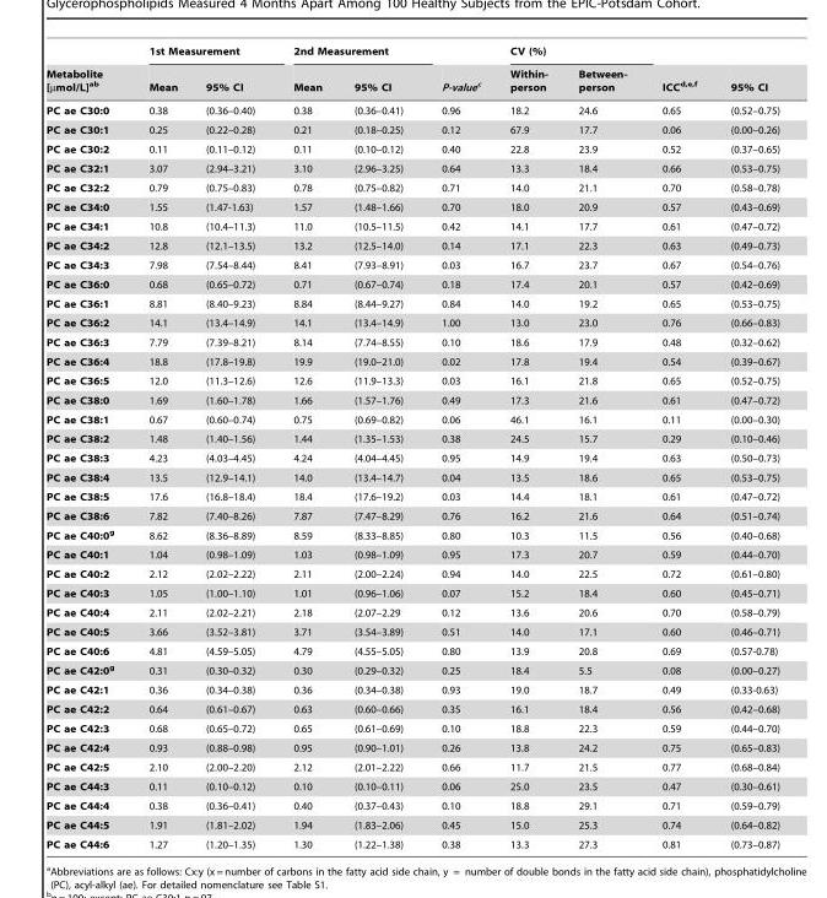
<table><thead><tr><td rowspan="2">Metabolite [µmol/L]<sup>ab</sup></td><td colspan="2">1st Measurement</td><td colspan="2">2nd Measurement</td><td rowspan="2">P-valuec</td><td colspan="2">CV (%)</td><td rowspan="2">ICC<sup>d,</sup>e<sup>,</sup>f</td><td rowspan="2">95% CI</td></tr><tr><td>Mean</td><td>95% CI</td><td>Mean</td><td>95% CI</td><td>Within- person</td><td>Between- person</td></tr></thead><tbody><tr><td>PC ae C30:0</td><td>0.38</td><td>(0.36–0.40)</td><td>0.38</td><td>(0.36–0.41)</td><td>0.96</td><td>18.2</td><td>24.6</td><td>0.65</td><td>(0.52–0.75)</td></tr><tr><td>PC ae C30:1</td><td>0.25</td><td>(0.22–0.28)</td><td>0.21</td><td>(0.18–0.25)</td><td>0.12</td><td>67.9</td><td>17.7</td><td>0.06</td><td>(0.00–0.26)</td></tr><tr><td>PC ae C30:2</td><td>0.11</td><td>(0.11–0.12)</td><td>0.11</td><td>(0.10–0.12)</td><td>0.40</td><td>22.8</td><td>23.9</td><td>0.52</td><td>(0.37–0.65)</td></tr><tr><td>PC ae C32:1</td><td>3.07</td><td>(2.94–3.21)</td><td>3.10</td><td>(2.96–3.25)</td><td>0.64</td><td>13.3</td><td>18.4</td><td>0.66</td><td>(0.53–0.75)</td></tr><tr><td>PC ae C32:2</td><td>0.79</td><td>(0.75–0.83)</td><td>0.78</td><td>(0.75–0.82)</td><td>0.71</td><td>14.0</td><td>21.1</td><td>0.70</td><td>(0.58–0.78)</td></tr><tr><td>PC ae C34:0</td><td>1.55</td><td>(1.47-1.63)</td><td>1.57</td><td>(1.48–1.66)</td><td>0.70</td><td>18.0</td><td>20.9</td><td>0.57</td><td>(0.43–0.69)</td></tr><tr><td>PC ae C34:1</td><td>10.8</td><td>(10.4–11.3)</td><td>11.0</td><td>(10.5–11.5)</td><td>0.42</td><td>14.1</td><td>17.7</td><td>0.61</td><td>(0.47–0.72)</td></tr><tr><td>PC ae C34:2</td><td>12.8</td><td>(12.1–13.5)</td><td>13.2</td><td>(12.5–14.0)</td><td>0.14</td><td>17.1</td><td>22.3</td><td>0.63</td><td>(0.49–0.73)</td></tr><tr><td>PC ae C34:3</td><td>7.98</td><td>(7.54–8.44)</td><td>8.41</td><td>(7.93–8.91)</td><td>0.03</td><td>16.7</td><td>23.7</td><td>0.67</td><td>(0.54–0.76)</td></tr><tr><td>PC ae C36:0</td><td>0.68</td><td>(0.65–0.72)</td><td>0.71</td><td>(0.67–0.74)</td><td>0.18</td><td>17.4</td><td>20.1</td><td>0.57</td><td>(0.42–0.69)</td></tr><tr><td>PC ae C36:1</td><td>8.81</td><td>(8.40–9.23)</td><td>8.84</td><td>(8.44–9.27)</td><td>0.84</td><td>14.0</td><td>19.2</td><td>0.65</td><td>(0.53–0.75)</td></tr><tr><td>PC ae C36:2</td><td>14.1</td><td>(13.4–14.9)</td><td>14.1</td><td>(13.4–14.9)</td><td>1.00</td><td>13.0</td><td>23.0</td><td>0.76</td><td>(0.66–0.83)</td></tr><tr><td>PC ae C36:3</td><td>7.79</td><td>(7.39–8.21)</td><td>8.14</td><td>(7.74–8.55)</td><td>0.10</td><td>18.6</td><td>17.9</td><td>0.48</td><td>(0.32–0.62)</td></tr><tr><td>PC ae C36:4</td><td>18.8</td><td>(17.8–19.8)</td><td>19.9</td><td>(19.0–21.0)</td><td>0.02</td><td>17.8</td><td>19.4</td><td>0.54</td><td>(0.39–0.67)</td></tr><tr><td>PC ae C36:5</td><td>12.0</td><td>(11.3–12.6)</td><td>12.6</td><td>(11.9–13.3)</td><td>0.03</td><td>16.1</td><td>21.8</td><td>0.65</td><td>(0.52–0.75)</td></tr><tr><td>PC ae C38:0</td><td>1.69</td><td>(1.60–1.78)</td><td>1.66</td><td>(1.57–1.76)</td><td>0.49</td><td>17.3</td><td>21.6</td><td>0.61</td><td>(0.47–0.72)</td></tr><tr><td>PC ae C38:1</td><td>0.67</td><td>(0.60–0.74)</td><td>0.75</td><td>(0.69–0.82)</td><td>0.06</td><td>46.1</td><td>16.1</td><td>0.11</td><td>(0.00–0.30)</td></tr><tr><td>PC ae C38:2</td><td>1.48</td><td>(1.40–1.56)</td><td>1.44</td><td>(1.35–1.53)</td><td>0.38</td><td>24.5</td><td>15.7</td><td>0.29</td><td>(0.10–0.46)</td></tr><tr><td>PC ae C38:3</td><td>4.23</td><td>(4.03–4.45)</td><td>4.24</td><td>(4.04–4.45)</td><td>0.95</td><td>14.9</td><td>19.4</td><td>0.63</td><td>(0.50–0.73)</td></tr><tr><td>PC ae C38:4</td><td>13.5</td><td>(12.9–14.1)</td><td>14.0</td><td>(13.4–14.7)</td><td>0.04</td><td>13.5</td><td>18.6</td><td>0.65</td><td>(0.53–0.75)</td></tr><tr><td>PC ae C38:5</td><td>17.6</td><td>(16.8–18.4)</td><td>18.4</td><td>(17.6–19.2)</td><td>0.03</td><td>14.4</td><td>18.1</td><td>0.61</td><td>(0.47–0.72)</td></tr><tr><td>PC ae C38:6</td><td>7.82</td><td>(7.40–8.26)</td><td>7.87</td><td>(7.47–8.29)</td><td>0.76</td><td>16.2</td><td>21.6</td><td>0.64</td><td>(0.51–0.74)</td></tr><tr><td>PC ae C40:0g</td><td>8.62</td><td>(8.36–8.89)</td><td>8.59</td><td>(8.33–8.85)</td><td>0.80</td><td>10.3</td><td>11.5</td><td>0.56</td><td>(0.40–0.68)</td></tr><tr><td>PC ae C40:1</td><td>1.04</td><td>(0.98–1.09)</td><td>1.03</td><td>(0.98–1.09)</td><td>0.95</td><td>17.3</td><td>20.7</td><td>0.59</td><td>(0.44–0.70)</td></tr><tr><td>PC ae C40:2</td><td>2.12</td><td>(2.02–2.22)</td><td>2.11</td><td>(2.00–2.24)</td><td>0.94</td><td>14.0</td><td>22.5</td><td>0.72</td><td>(0.61–0.80)</td></tr><tr><td>PC ae C40:3</td><td>1.05</td><td>(1.00–1.10)</td><td>1.01</td><td>(0.96–1.06)</td><td>0.07</td><td>15.2</td><td>18.4</td><td>0.60</td><td>(0.45–0.71)</td></tr><tr><td>PC ae C40:4</td><td>2.11</td><td>(2.02–2.21)</td><td>2.18</td><td>(2.07–2.29</td><td>0.12</td><td>13.6</td><td>20.6</td><td>0.70</td><td>(0.58–0.79)</td></tr><tr><td>PC ae C40:5</td><td>3.66</td><td>(3.52–3.81)</td><td>3.71</td><td>(3.54–3.89)</td><td>0.51</td><td>14.0</td><td>17.1</td><td>0.60</td><td>(0.46–0.71)</td></tr><tr><td>PC ae C40:6</td><td>4.81</td><td>(4.59–5.05)</td><td>4.79</td><td>(4.55–5.05)</td><td>0.80</td><td>13.9</td><td>20.8</td><td>0.69</td><td>(0.57-0.78)</td></tr><tr><td>PC ae C42:0g</td><td>0.31</td><td>(0.30–0.32)</td><td>0.30</td><td>(0.29–0.32)</td><td>0.25</td><td>18.4</td><td>5.5</td><td>0.08</td><td>(0.00–0.27)</td></tr><tr><td>PC ae C42:1</td><td>0.36</td><td>(0.34–0.38)</td><td>0.36</td><td>(0.34–0.38)</td><td>0.93</td><td>19.0</td><td>18.7</td><td>0.49</td><td>(0.33-0.63)</td></tr><tr><td>PC ae C42:2</td><td>0.64</td><td>(0.61–0.67)</td><td>0.63</td><td>(0.60–0.66)</td><td>0.35</td><td>16.1</td><td>18.4</td><td>0.56</td><td>(0.42–0.68)</td></tr><tr><td>PC ae C42:3</td><td>0.68</td><td>(0.65–0.72)</td><td>0.65</td><td>(0.61–0.69)</td><td>0.10</td><td>18.8</td><td>22.3</td><td>0.59</td><td>(0.44–0.70)</td></tr><tr><td>PC ae C42:4</td><td>0.93</td><td>(0.88–0.98)</td><td>0.95</td><td>(0.90–1.01)</td><td>0.26</td><td>13.8</td><td>24.2</td><td>0.75</td><td>(0.65–0.83)</td></tr><tr><td>PC ae C42:5</td><td>2.10</td><td>(2.00–2.20)</td><td>2.12</td><td>(2.01–2.22)</td><td>0.66</td><td>11.7</td><td>21.5</td><td>0.77</td><td>(0.68–0.84)</td></tr><tr><td>PC ae C44:3</td><td>0.11</td><td>(0.10–0.12)</td><td>0.10</td><td>(0.10–0.11)</td><td>0.06</td><td>25.0</td><td>23.5</td><td>0.47</td><td>(0.30–0.61)</td></tr><tr><td>PC ae C44:4</td><td>0.38</td><td>(0.36–0.41)</td><td>0.40</td><td>(0.37–0.43)</td><td>0.10</td><td>18.8</td><td>29.1</td><td>0.71</td><td>(0.59–0.79)</td></tr><tr><td>PC ae C44:5</td><td>1.91</td><td>(1.81–2.02)</td><td>1.94</td><td>(1.83–2.06)</td><td>0.45</td><td>15.0</td><td>25.3</td><td>0.74</td><td>(0.64–0.82)</td></tr><tr><td>PC ae C44:6</td><td>1.27</td><td>(1.20–1.35)</td><td>1.30</td><td>(1.22–1.38)</td><td>0.38</td><td>13.3</td><td>27.3</td><td>0.81</td><td>(0.73–0.87)</td></tr></tbody></table>